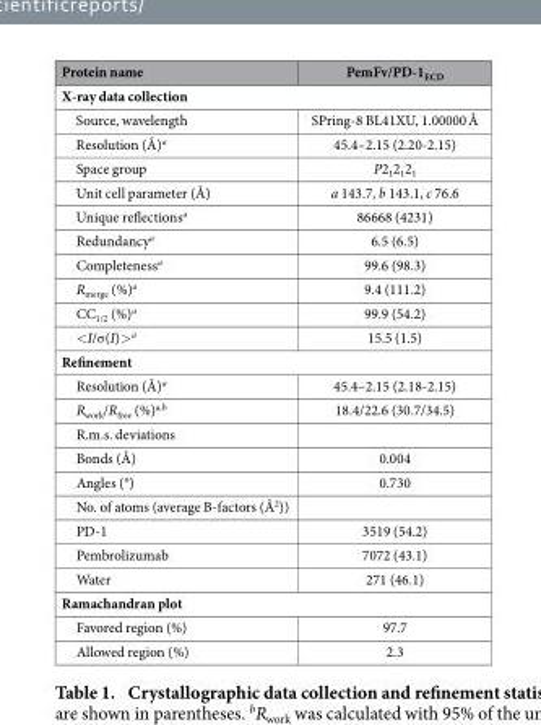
<table><thead><tr><td>Protein name</td><td>PemFv/PD-1<sub>ECD</sub></td></tr></thead><tbody><tr><td colspan="2">X-ray data collection</td></tr><tr><td>Source, wavelength</td><td>SPring-8 BL41XU, 1.00000 Å</td></tr><tr><td>Resolution (Å)<sup>a</sup></td><td>45.4–2.15 (2.20-2.15)</td></tr><tr><td>Space group</td><td>P2<sub>1</sub>2<sub>1</sub>2<sub>1</sub></td></tr><tr><td>Unit cell parameter (Å)</td><td>a 143.7, b 143.1, c 76.6</td></tr><tr><td>Unique reflections<sup>a</sup></td><td>86668 (4231)</td></tr><tr><td>Redundancy<sup>a</sup></td><td>6.5 (6.5)</td></tr><tr><td>Completeness<sup>a</sup></td><td>99.6 (98.3)</td></tr><tr><td>R<sub>merge</sub> (%)<sup>a</sup></td><td>9.4 (111.2)</td></tr><tr><td>CC<sub>1/2</sub> (%)<sup>a</sup></td><td>99.9 (54.2)</td></tr><tr><td>&lt; I/σ (I)&gt; <sup>a</sup></td><td>15.5 (1.5)</td></tr><tr><td colspan="2">Refinement</td></tr><tr><td>Resolution (Å)<sup>a</sup></td><td>45.4–2.15 (2.18-2.15)</td></tr><tr><td>R<sub>work</sub>/R<sub>free</sub> (%)<sup>a</sup>,<sup>b</sup></td><td>18.4/22.6 (30.7/34.5)</td></tr><tr><td colspan="2">R.m.s. deviations</td></tr><tr><td>Bonds (Å)</td><td>0.004</td></tr><tr><td>Angles (°)</td><td>0.730</td></tr><tr><td colspan="2">No. of atoms (average B-factors (Å<sup>2</sup>))</td></tr><tr><td>PD-1</td><td>3519 (54.2)</td></tr><tr><td>Pembrolizumab</td><td>7072 (43.1)</td></tr><tr><td>Water</td><td>271 (46.1)</td></tr><tr><td colspan="2">Ramachandran plot</td></tr><tr><td>Favored region (%)</td><td>97.7</td></tr><tr><td>Allowed region (%)</td><td>2.3</td></tr></tbody></table>